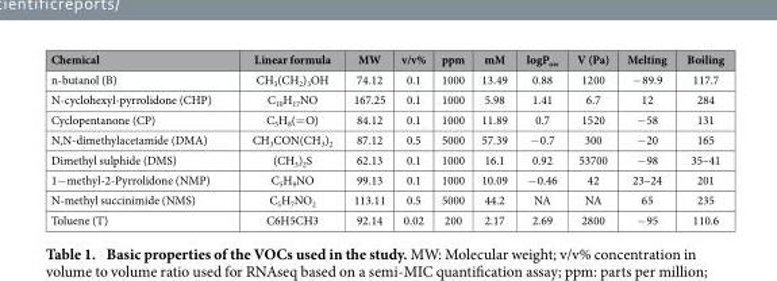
<table><thead><tr><td>Chemical</td><td>Linear formula</td><td>MW</td><td>v/v%</td><td>ppm</td><td>mM</td><td>logP<sub>ow</sub></td><td>V (Pa)</td><td>Melting</td><td>Boiling</td></tr></thead><tbody><tr><td>n-butanol (B)</td><td>CH<sub>3</sub>(CH<sub>2</sub>)<sub>3</sub>OH</td><td>74.12</td><td>0.1</td><td>1000</td><td>13.49</td><td>0.88</td><td>1200</td><td>− 89.9</td><td>117.7</td></tr><tr><td>N-cyclohexyl-pyrrolidone (CHP)</td><td>C<sub>10</sub>H<sub>17</sub>NO</td><td>167.25</td><td>0.1</td><td>1000</td><td>5.98</td><td>1.41</td><td>6.7</td><td>12</td><td>284</td></tr><tr><td>Cyclopentanone (CP)</td><td>C<sub>5</sub>H<sub>8</sub>(= O)</td><td>84.12</td><td>0.1</td><td>1000</td><td>11.89</td><td>0.7</td><td>1520</td><td>− 58</td><td>131</td></tr><tr><td>N,N-dimethylacetamide (DMA)</td><td>CH<sub>3</sub>CON(CH<sub>3</sub>)<sub>2</sub></td><td>87.12</td><td>0.5</td><td>5000</td><td>57.39</td><td>− 0.7</td><td>300</td><td>− 20</td><td>165</td></tr><tr><td>Dimethyl sulphide (DMS)</td><td>(CH<sub>3</sub>)<sub>2</sub>S</td><td>62.13</td><td>0.1</td><td>1000</td><td>16.1</td><td>0.92</td><td>53700</td><td>− 98</td><td>35–41</td></tr><tr><td>1− methyl-2-Pyrrolidone (NMP)</td><td>C<sub>5</sub>H<sub>9</sub>NO</td><td>99.13</td><td>0.1</td><td>1000</td><td>10.09</td><td>− 0.46</td><td>42</td><td>23–24</td><td>201</td></tr><tr><td>N-methyl succinimide (NMS)</td><td>C<sub>5</sub>H<sub>7</sub>NO<sub>2</sub></td><td>113.11</td><td>0.5</td><td>5000</td><td>44.2</td><td>NA</td><td>NA</td><td>65</td><td>235</td></tr><tr><td>Toluene (T)</td><td>C6H5CH3</td><td>92.14</td><td>0.02</td><td>200</td><td>2.17</td><td>2.69</td><td>2800</td><td>− 95</td><td>110.6</td></tr></tbody></table>